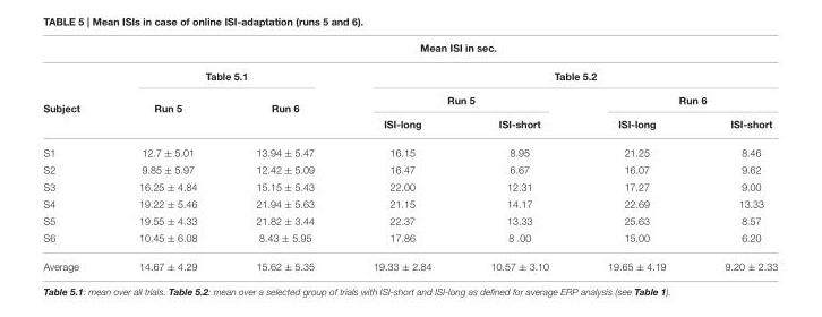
<table><thead><tr><td rowspan="4">Subject</td><td colspan="6">Mean ISI in sec.</td></tr><tr><td colspan="2">Table 5.1</td><td colspan="4">Table 5.2</td></tr><tr><td rowspan="2">Run 5</td><td rowspan="2">Run 6</td><td colspan="2">Run 5</td><td colspan="2">Run 6</td></tr><tr><td>ISI-long</td><td>ISI-short</td><td>ISI-long</td><td>ISI-short</td></tr></thead><tbody><tr><td>S1</td><td>12.7 ± 5.01</td><td>13.94 ± 5.47</td><td>16.15</td><td>8.95</td><td>21.25</td><td>8.46</td></tr><tr><td>S2</td><td>9.85 ± 5.97</td><td>12.42 ± 5.09</td><td>16.47</td><td>6.67</td><td>16.07</td><td>9.62</td></tr><tr><td>S3</td><td>16.25 ± 4.84</td><td>15.15 ± 5.43</td><td>22.00</td><td>12.31</td><td>17.27</td><td>9.00</td></tr><tr><td>S4</td><td>19.22 ± 5.46</td><td>21.94 ± 5.63</td><td>21.15</td><td>14.17</td><td>22.69</td><td>13.33</td></tr><tr><td>S5</td><td>19.55 ± 4.33</td><td>21.82 ± 3.44</td><td>22.37</td><td>13.33</td><td>25.63</td><td>8.57</td></tr><tr><td>S6</td><td>10.45 ± 6.08</td><td>8.43 ± 5.95</td><td>17.86</td><td>8 .00</td><td>15.00</td><td>6.20</td></tr><tr><td>Average</td><td>14.67 ± 4.29</td><td>15.62 ± 5.35</td><td>19.33 ± 2.84</td><td>10.57 ± 3.10</td><td>19.65 ± 4.19</td><td>9.20 ± 2.33</td></tr></tbody></table>